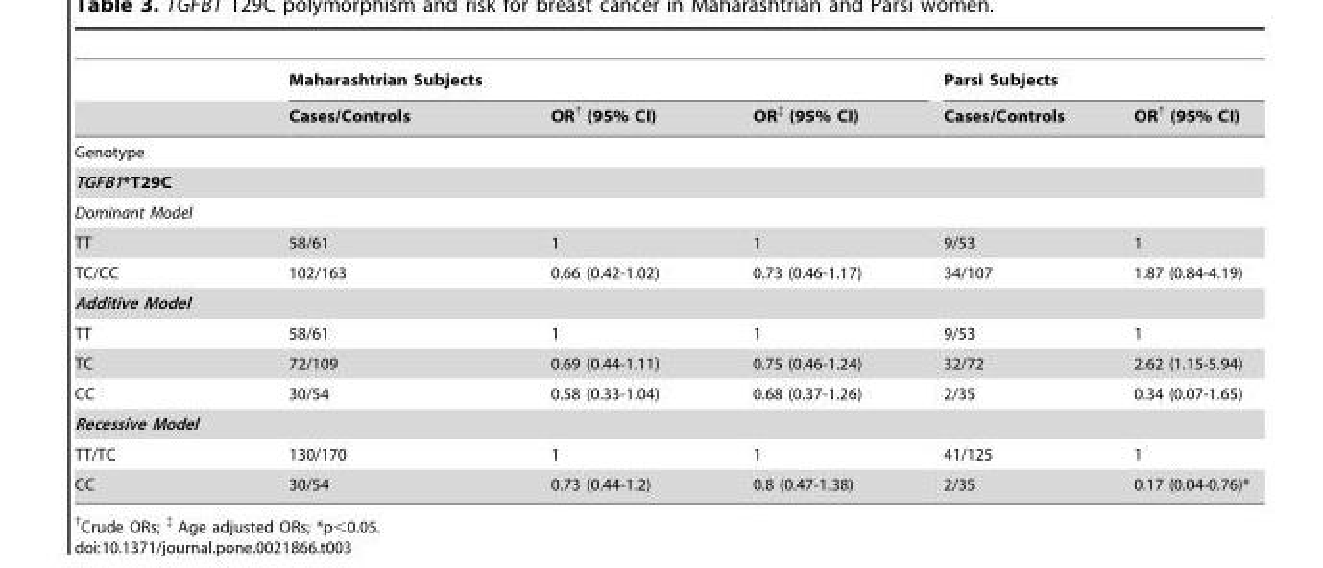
<table><thead><tr><td rowspan="2"></td><td colspan="3">Maharashtrian Subjects</td><td colspan="2">Parsi Subjects</td></tr><tr><td>Cases/Controls</td><td>OR† (95% CI)</td><td>OR<sup>‡</sup> (95% CI)</td><td>Cases/Controls</td><td>OR† (95% CI)</td></tr></thead><tbody><tr><td colspan="6">Genotype</td></tr><tr><td colspan="6">TGFB1*T29C</td></tr><tr><td colspan="6">Dominant Model</td></tr><tr><td>TT</td><td>58/61</td><td>1</td><td>1</td><td>9/53</td><td>1</td></tr><tr><td>TC/CC</td><td>102/163</td><td>0.66 (0.42-1.02)</td><td>0.73 (0.46-1.17)</td><td>34/107</td><td>1.87 (0.84-4.19)</td></tr><tr><td colspan="6">Additive Model</td></tr><tr><td>TT</td><td>58/61</td><td>1</td><td>1</td><td>9/53</td><td>1</td></tr><tr><td>TC</td><td>72/109</td><td>0.69 (0.44-1.11)</td><td>0.75 (0.46-1.24)</td><td>32/72</td><td>2.62 (1.15-5.94)</td></tr><tr><td>CC</td><td>30/54</td><td>0.58 (0.33-1.04)</td><td>0.68 (0.37-1.26)</td><td>2/35</td><td>0.34 (0.07-1.65)</td></tr><tr><td colspan="6">Recessive Model</td></tr><tr><td>TT/TC</td><td>130/170</td><td>1</td><td>1</td><td>41/125</td><td>1</td></tr><tr><td>CC</td><td>30/54</td><td>0.73 (0.44-1.2)</td><td>0.8 (0.47-1.38)</td><td>2/35</td><td>0.17 (0.04-0.76)*</td></tr></tbody></table>